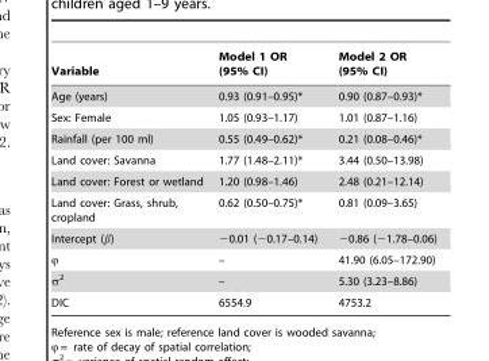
<table><thead><tr><td>Variable</td><td>Model 1 OR (95% CI)</td><td>Model 2 OR (95% CI)</td></tr></thead><tbody><tr><td>Age (years)</td><td>0.93 (0.91–0.95)*</td><td>0.90 (0.87–0.93)*</td></tr><tr><td>Sex: Female</td><td>1.05 (0.93–1.17)</td><td>1.01 (0.87–1.16)</td></tr><tr><td>Rainfall (per 100 ml)</td><td>0.55 (0.49–0.62)*</td><td>0.21 (0.08–0.46)*</td></tr><tr><td>Land cover: Savanna</td><td>1.77 (1.48–2.11)*</td><td>3.44 (0.50–13.98)</td></tr><tr><td>Land cover: Forest or wetland</td><td>1.20 (0.98–1.46)</td><td>2.48 (0.21–12.14)</td></tr><tr><td>Land cover: Grass, shrub, cropland</td><td>0.62 (0.50–0.75)*</td><td>0.81 (0.09–3.65)</td></tr><tr><td>Intercept (β)</td><td>−0.01 (−0.17–0.14)</td><td>−0.86 (−1.78–0.06)</td></tr><tr><td>ϕ</td><td>–</td><td>41.90 (6.05–172.90)</td></tr><tr><td>σ<sup>2</sup></td><td>–</td><td>5.30 (3.23–8.86)</td></tr><tr><td>DIC</td><td>6554.9</td><td>4753.2</td></tr></tbody></table>